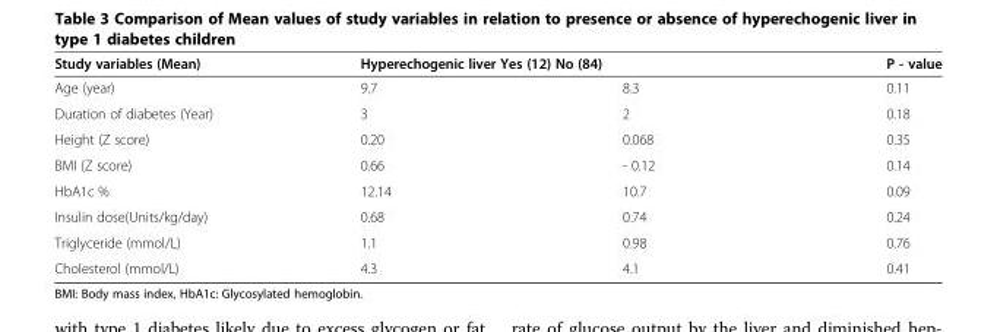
<table><thead><tr><td rowspan="2">Study variables (Mean) Age (year)</td><td colspan="2">Hyperechogenic liver Yes (12) No (84)</td><td rowspan="2">P - value 0.11</td></tr><tr><td>9.7</td><td>8.3</td></tr></thead><tbody><tr><td>Duration of diabetes (Year)</td><td>3</td><td>2</td><td>0.18</td></tr><tr><td>Height (Z score)</td><td>0.20</td><td>0.068</td><td>0.35</td></tr><tr><td>BMI (Z score)</td><td>0.66</td><td>- 0.12</td><td>0.14</td></tr><tr><td>HbA1c %</td><td>12.14</td><td>10.7</td><td>0.09</td></tr><tr><td>Insulin dose(Units/kg/day)</td><td>0.68</td><td>0.74</td><td>0.24</td></tr><tr><td>Triglyceride (mmol/L)</td><td>1.1</td><td>0.98</td><td>0.76</td></tr><tr><td>Cholesterol (mmol/L)</td><td>4.3</td><td>4.1</td><td>0.41</td></tr></tbody></table>